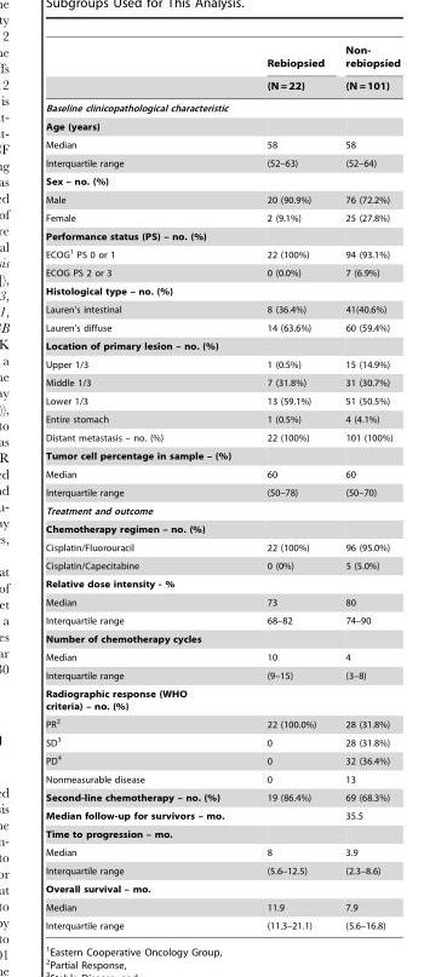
<table><thead><tr><td rowspan="2"></td><td rowspan="2">Rebiopsied (N = 22)</td><td rowspan="2">Non- rebiopsied (N = 101)</td></tr><tr></tr></thead><tbody><tr><td colspan="3">Baseline clinicopathological characteristic</td></tr><tr><td colspan="3">Age (years)</td></tr><tr><td>Median</td><td>58</td><td>58</td></tr><tr><td>Interquartile range</td><td>(52–63)</td><td>(52–64)</td></tr><tr><td colspan="3">Sex – no. (%)</td></tr><tr><td>Male</td><td>20 (90.9%)</td><td>76 (72.2%)</td></tr><tr><td>Female</td><td>2 (9.1%)</td><td>25 (27.8%)</td></tr><tr><td colspan="3">Performance status (PS) – no. (%)</td></tr><tr><td>ECOG<sup>1</sup> PS 0 or 1</td><td>22 (100%)</td><td>94 (93.1%)</td></tr><tr><td>ECOG PS 2 or 3</td><td>0 (0.0%)</td><td>7 (6.9%)</td></tr><tr><td colspan="3">Histological type – no. (%)</td></tr><tr><td>Lauren’s intestinal</td><td>8 (36.4%)</td><td>41(40.6%)</td></tr><tr><td>Lauren’s diffuse</td><td>14 (63.6%)</td><td>60 (59.4%)</td></tr><tr><td colspan="3">Location of primary lesion – no. (%)</td></tr><tr><td>Upper 1/3</td><td>1 (0.5%)</td><td>15 (14.9%)</td></tr><tr><td>Middle 1/3</td><td>7 (31.8%)</td><td>31 (30.7%)</td></tr><tr><td>Lower 1/3</td><td>13 (59.1%)</td><td>51 (50.5%)</td></tr><tr><td>Entire stomach</td><td>1 (0.5%)</td><td>4 (4.1%)</td></tr><tr><td>Distant metastasis – no. (%)</td><td>22 (100%)</td><td>101 (100%)</td></tr><tr><td colspan="3">Tumor cell percentage in sample – (%)</td></tr><tr><td>Median</td><td>60</td><td>60</td></tr><tr><td>Interquartile range</td><td>(50–78)</td><td>(50–70)</td></tr><tr><td colspan="3">Treatment and outcome</td></tr><tr><td colspan="3">Chemotherapy regimen – no. (%)</td></tr><tr><td>Cisplatin/Fluorouracil</td><td>22 (100%)</td><td>96 (95.0%)</td></tr><tr><td>Cisplatin/Capecitabine</td><td>0 (0%)</td><td>5 (5.0%)</td></tr><tr><td colspan="3">Relative dose intensity - %</td></tr><tr><td>Median</td><td>73</td><td>80</td></tr><tr><td>Interquartile range</td><td>68–82</td><td>74–90</td></tr><tr><td colspan="3">Number of chemotherapy cycles</td></tr><tr><td>Median</td><td>10</td><td>4</td></tr><tr><td>Interquartile range</td><td>(9–15)</td><td>(3–8)</td></tr><tr><td colspan="3">Radiographic response (WHO criteria) – no. (%)</td></tr><tr><td>PR<sup>2</sup></td><td>22 (100.0%)</td><td>28 (31.8%)</td></tr><tr><td>SD<sup>3</sup></td><td>0</td><td>28 (31.8%)</td></tr><tr><td>PD<sup>4</sup></td><td>0</td><td>32 (36.4%)</td></tr><tr><td>Nonmeasurable disease</td><td>0</td><td>13</td></tr><tr><td>Second-line chemotherapy – no. (%)</td><td>19 (86.4%)</td><td>69 (68.3%)</td></tr><tr><td>Median follow-up for survivors – mo.</td><td></td><td>35.5</td></tr><tr><td colspan="3">Time to progression – mo.</td></tr><tr><td>Median</td><td>8</td><td>3.9</td></tr><tr><td>Interquartile range</td><td>(5.6–12.5)</td><td>(2.3–8.6)</td></tr><tr><td colspan="3">Overall survival – mo.</td></tr><tr><td>Median</td><td>11.9</td><td>7.9</td></tr><tr><td>Interquartile range</td><td>(11.3–21.1)</td><td>(5.6–16.8)</td></tr></tbody></table>